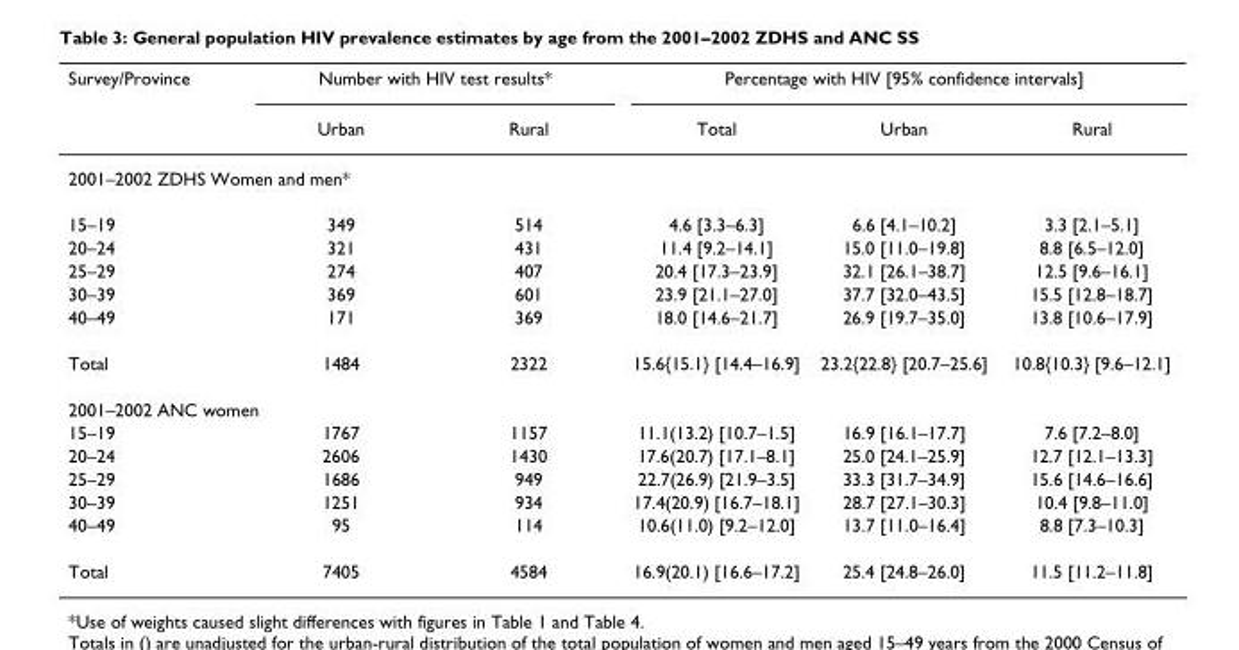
<table><thead><tr><td rowspan="2">Survey/Province</td><td colspan="2">Number with HIV test results*</td><td colspan="3">Percentage with HIV [95% confidence intervals]</td></tr><tr><td>Urban</td><td>Rural</td><td>Total</td><td>Urban</td><td>Rural</td></tr></thead><tbody><tr><td colspan="6">2001–2002 ZDHS Women and men*</td></tr><tr><td>15–19</td><td>349</td><td>514</td><td>4.6 [3.3–6.3]</td><td>6.6 [4.1–10.2]</td><td>3.3 [2.1–5.1]</td></tr><tr><td>20–24</td><td>321</td><td>431</td><td>11.4 [9.2–14.1]</td><td>15.0 [11.0–19.8]</td><td>8.8 [6.5–12.0]</td></tr><tr><td>25–29</td><td>274</td><td>407</td><td>20.4 [17.3–23.9]</td><td>32.1 [26.1–38.7]</td><td>12.5 [9.6–16.1]</td></tr><tr><td>30–39</td><td>369</td><td>601</td><td>23.9 [21.1–27.0]</td><td>37.7 [32.0–43.5]</td><td>15.5 [12.8–18.7]</td></tr><tr><td>40–49</td><td>171</td><td>369</td><td>18.0 [14.6–21.7]</td><td>26.9 [19.7–35.0]</td><td>13.8 [10.6–17.9]</td></tr><tr><td>Total</td><td>1484</td><td>2322</td><td>15.6{15.1} [14.4–16.9]</td><td>23.2{22.8} [20.7–25.6]</td><td>10.8{10.3} [9.6–12.1]</td></tr><tr><td colspan="6">2001–2002 ANC women</td></tr><tr><td>15–19</td><td>1767</td><td>1157</td><td>11.1(13.2) [10.7–1.5]</td><td>16.9 [16.1–17.7]</td><td>7.6 [7.2–8.0]</td></tr><tr><td>20–24</td><td>2606</td><td>1430</td><td>17.6(20.7) [17.1–8.1]</td><td>25.0 [24.1–25.9]</td><td>12.7 [12.1–13.3]</td></tr><tr><td>25–29</td><td>1686</td><td>949</td><td>22.7(26.9) [21.9–3.5]</td><td>33.3 [31.7–34.9]</td><td>15.6 [14.6–16.6]</td></tr><tr><td>30–39</td><td>1251</td><td>934</td><td>17.4(20.9) [16.7–18.1]</td><td>28.7 [27.1–30.3]</td><td>10.4 [9.8–11.0]</td></tr><tr><td>40–49</td><td>95</td><td>114</td><td>10.6(11.0) [9.2–12.0]</td><td>13.7 [11.0–16.4]</td><td>8.8 [7.3–10.3]</td></tr><tr><td>Total</td><td>7405</td><td>4584</td><td>16.9(20.1) [16.6–17.2]</td><td>25.4 [24.8–26.0]</td><td>11.5 [11.2–11.8]</td></tr></tbody></table>